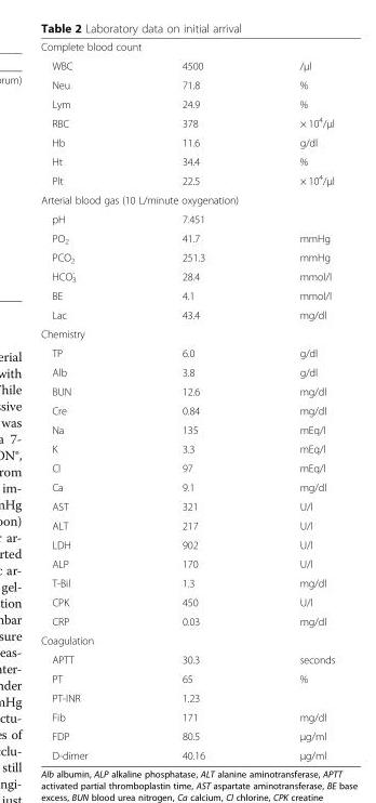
<table><tbody><tr><td colspan="3">Complete blood count</td></tr><tr><td>WBC</td><td>4500</td><td>/μl</td></tr><tr><td>Neu</td><td>71.8</td><td>%</td></tr><tr><td>Lym</td><td>24.9</td><td>%</td></tr><tr><td>RBC</td><td>378</td><td>× 10<sup>4</sup>/μl</td></tr><tr><td>Hb</td><td>11.6</td><td>g/dl</td></tr><tr><td>Ht</td><td>34.4</td><td>%</td></tr><tr><td>Plt</td><td>22.5</td><td>× 10<sup>4</sup>/μl</td></tr><tr><td colspan="3">Arterial blood gas (10 L/minute oxygenation)</td></tr><tr><td>pH</td><td>7.451</td><td></td></tr><tr><td>PO<sub>2</sub></td><td>41.7</td><td>mmHg</td></tr><tr><td>PCO<sub>2</sub></td><td>251.3</td><td>mmHg</td></tr><tr><td>HCO<sub>3</sub> <sup>-</sup></td><td>28.4</td><td>mmol/l</td></tr><tr><td>BE</td><td>4.1</td><td>mmol/l</td></tr><tr><td>Lac</td><td>43.4</td><td>mg/dl</td></tr><tr><td colspan="3">Chemistry</td></tr><tr><td>TP</td><td>6.0</td><td>g/dl</td></tr><tr><td>Alb</td><td>3.8</td><td>g/dl</td></tr><tr><td>BUN</td><td>12.6</td><td>mg/dl</td></tr><tr><td>Cre</td><td>0.84</td><td>mg/dl</td></tr><tr><td>Na</td><td>135</td><td>mEq/l</td></tr><tr><td>K</td><td>3.3</td><td>mEq/l</td></tr><tr><td>Cl</td><td>97</td><td>mEq/l</td></tr><tr><td>Ca</td><td>9.1</td><td>mg/dl</td></tr><tr><td>AST</td><td>321</td><td>U/l</td></tr><tr><td>ALT</td><td>217</td><td>U/l</td></tr><tr><td>LDH</td><td>902</td><td>U/l</td></tr><tr><td>ALP</td><td>170</td><td>U/l</td></tr><tr><td>T-Bil</td><td>1.3</td><td>mg/dl</td></tr><tr><td>CPK</td><td>450</td><td>U/l</td></tr><tr><td>CRP</td><td>0.03</td><td>mg/dl</td></tr><tr><td colspan="3">Coagulation</td></tr><tr><td>APTT</td><td>30.3</td><td>seconds</td></tr><tr><td>PT</td><td>65</td><td>%</td></tr><tr><td>PT-INR</td><td>1.23</td><td></td></tr><tr><td>Fib</td><td>171</td><td>mg/dl</td></tr><tr><td>FDP</td><td>80.5</td><td>μg/ml</td></tr><tr><td>D-dimer</td><td>40.16</td><td>μg/ml</td></tr></tbody></table>